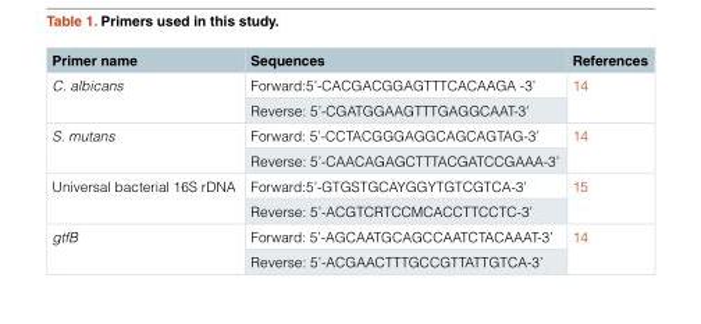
<table><thead><tr><td>Primer name</td><td>Sequences</td><td>References</td></tr></thead><tbody><tr><td rowspan="2">C. albicans</td><td>Forward:5’-CACGACGGAGTTTCACAAGA -3’</td><td rowspan="2">14</td></tr><tr><td>Reverse: 5’-CGATGGAAGTTTGAGGCAAT-3’</td></tr><tr><td rowspan="2">S. mutans</td><td>Forward: 5’-CCTACGGGAGGCAGCAGTAG-3’</td><td rowspan="2">14</td></tr><tr><td>Reverse: 5’-CAACAGAGCTTTACGATCCGAAA-3’</td></tr><tr><td rowspan="2">Universal bacterial 16S rDNA</td><td>Forward:5’-GTGSTGCAYGGYTGTCGTCA-3’</td><td rowspan="2">15</td></tr><tr><td>Reverse: 5’-ACGTCRTCCMCACCTTCCTC-3’</td></tr><tr><td rowspan="2">gtfB</td><td>Forward: 5’-AGCAATGCAGCCAATCTACAAAT-3’</td><td rowspan="2">14</td></tr><tr><td>Reverse: 5’-ACGAACTTTGCCGTTATTGTCA-3’</td></tr></tbody></table>